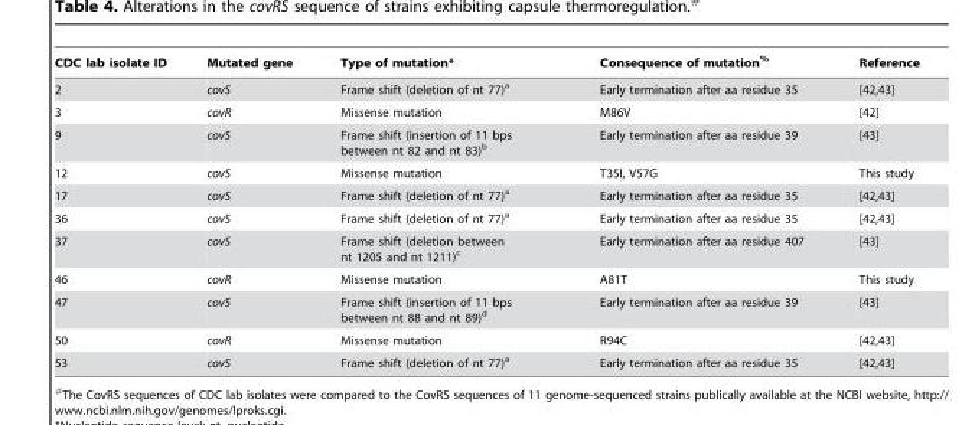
<table><thead><tr><td>CDC lab isolate ID</td><td>Mutated gene</td><td>Type of mutation*</td><td>Consequence of mutation%</td><td>Reference</td></tr></thead><tbody><tr><td>2</td><td>covS</td><td>Frame shift (deletion of nt 77)<sup>a</sup></td><td>Early termination after aa residue 35</td><td>[42,43]</td></tr><tr><td>3</td><td>covR</td><td>Missense mutation</td><td>M86V</td><td>[42]</td></tr><tr><td>9</td><td>covS</td><td>Frame shift (insertion of 11 bps between nt 82 and nt 83)<sup>b</sup></td><td>Early termination after aa residue 39</td><td>[43]</td></tr><tr><td>12</td><td>covS</td><td>Missense mutation</td><td>T35I, V57G</td><td>This study</td></tr><tr><td>17</td><td>covS</td><td>Frame shift (deletion of nt 77)<sup>a</sup></td><td>Early termination after aa residue 35</td><td>[42,43]</td></tr><tr><td>36</td><td>covS</td><td>Frame shift (deletion of nt 77)<sup>a</sup></td><td>Early termination after aa residue 35</td><td>[42,43]</td></tr><tr><td>37</td><td>covS</td><td>Frame shift (deletion between nt 1205 and nt 1211)<sup>c</sup></td><td>Early termination after aa residue 407</td><td>[43]</td></tr><tr><td>46</td><td>covR</td><td>Missense mutation</td><td>A81T</td><td>This study</td></tr><tr><td>47</td><td>covS</td><td>Frame shift (insertion of 11 bps between nt 88 and nt 89)<sup>d</sup></td><td>Early termination after aa residue 39</td><td>[43]</td></tr><tr><td>50</td><td>covR</td><td>Missense mutation</td><td>R94C</td><td>[42,43]</td></tr><tr><td>53</td><td>covS</td><td>Frame shift (deletion of nt 77)<sup>a</sup></td><td>Early termination after aa residue 35</td><td>[42,43]</td></tr></tbody></table>